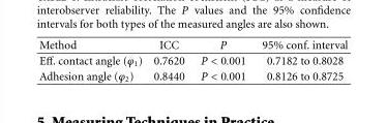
<table><thead><tr><td>Method</td><td>ICC</td><td>P</td><td>95% conf. interval</td></tr></thead><tbody><tr><td>Eff. contact angle (ϕ<sub>1</sub>)</td><td>0.7620</td><td>P &lt; 0.001</td><td>0.7182 to 0.8028</td></tr><tr><td>Adhesion angle (ϕ<sub>2</sub>)</td><td>0.8440</td><td>P &lt; 0.001</td><td>0.8126 to 0.8725</td></tr></tbody></table>